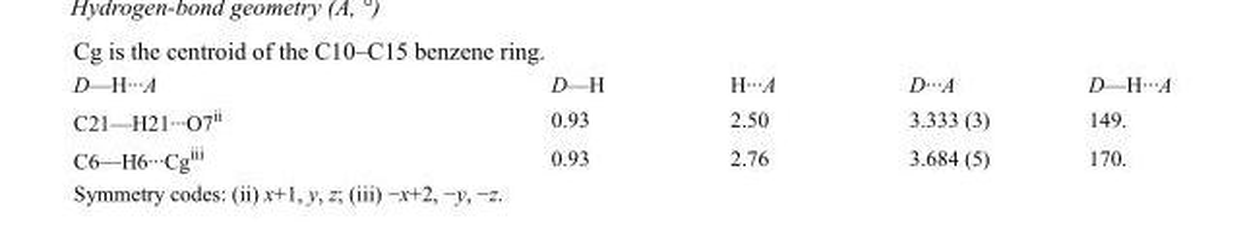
<table><tbody><tr><td>D—H···A</td><td>D—H</td><td>H···A</td><td>D···A</td><td>D—H···A</td></tr><tr><td>C21—H21···O7<sup>ii</sup></td><td>0.93</td><td>2.50</td><td>3.333 (3)</td><td>149.</td></tr><tr><td>C6—H6···Cg<sup>iii</sup></td><td>0.93</td><td>2.76</td><td>3.684 (5)</td><td>170.</td></tr></tbody></table>